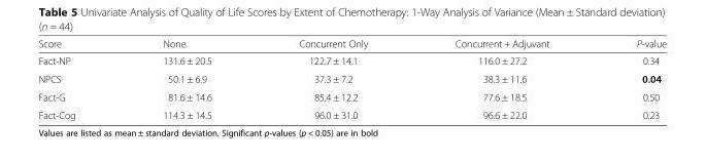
<table><thead><tr><td>Score</td><td>None</td><td>Concurrent Only</td><td>Concurrent + Adjuvant</td><td>P-value</td></tr></thead><tbody><tr><td>Fact-NP</td><td>131.6 ± 20.5</td><td>122.7 ± 14.1</td><td>116.0 ± 27.2</td><td>0.34</td></tr><tr><td>NPCS</td><td>50.1 ± 6.9</td><td>37.3 ± 7.2</td><td>38.3 ± 11.6</td><td>0.04</td></tr><tr><td>Fact-G</td><td>81.6 ± 14.6</td><td>85.4 ± 12.2</td><td>77.6 ± 18.5</td><td>0.50</td></tr><tr><td>Fact-Cog</td><td>114.3 ± 14.5</td><td>96.0 ± 31.0</td><td>96.6 ± 22.0</td><td>0.23</td></tr></tbody></table>